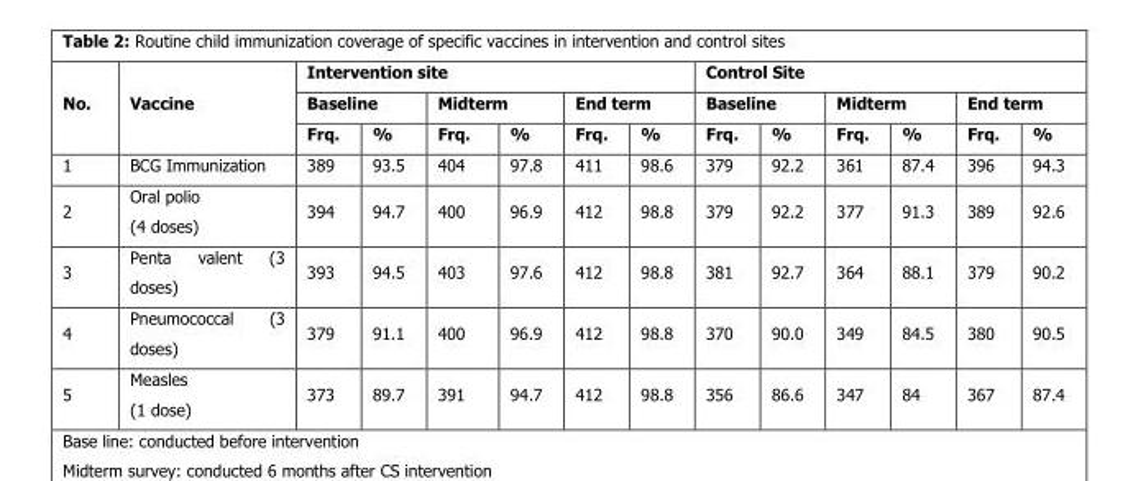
<table><thead><tr><td rowspan="3">No.</td><td rowspan="3">Vaccine</td><td colspan="6">Intervention site</td><td colspan="6">Control Site</td></tr><tr><td colspan="2">Baseline</td><td colspan="2">Midterm</td><td colspan="2">End term</td><td colspan="2">Baseline</td><td colspan="2">Midterm</td><td colspan="2">End term</td></tr><tr><td>Frq.</td><td>%</td><td>Frq.</td><td>%</td><td>Frq.</td><td>%</td><td>Frq.</td><td>%</td><td>Frq.</td><td>%</td><td>Frq.</td><td>%</td></tr></thead><tbody><tr><td>1</td><td>BCG Immunization</td><td>389</td><td>93.5</td><td>404</td><td>97.8</td><td>411</td><td>98.6</td><td>379</td><td>92.2</td><td>361</td><td>87.4</td><td>396</td><td>94.3</td></tr><tr><td>2</td><td>Oral polio (4 doses)</td><td>394</td><td>94.7</td><td>400</td><td>96.9</td><td>412</td><td>98.8</td><td>379</td><td>92.2</td><td>377</td><td>91.3</td><td>389</td><td>92.6</td></tr><tr><td>3</td><td>Penta valent (3 doses)</td><td>393</td><td>94.5</td><td>403</td><td>97.6</td><td>412</td><td>98.8</td><td>381</td><td>92.7</td><td>364</td><td>88.1</td><td>379</td><td>90.2</td></tr><tr><td>4</td><td>Pneumococcal (3 doses)</td><td>379</td><td>91.1</td><td>400</td><td>96.9</td><td>412</td><td>98.8</td><td>370</td><td>90.0</td><td>349</td><td>84.5</td><td>380</td><td>90.5</td></tr><tr><td>5</td><td>Measles (1 dose)</td><td>373</td><td>89.7</td><td>391</td><td>94.7</td><td>412</td><td>98.8</td><td>356</td><td>86.6</td><td>347</td><td>84</td><td>367</td><td>87.4</td></tr></tbody></table>